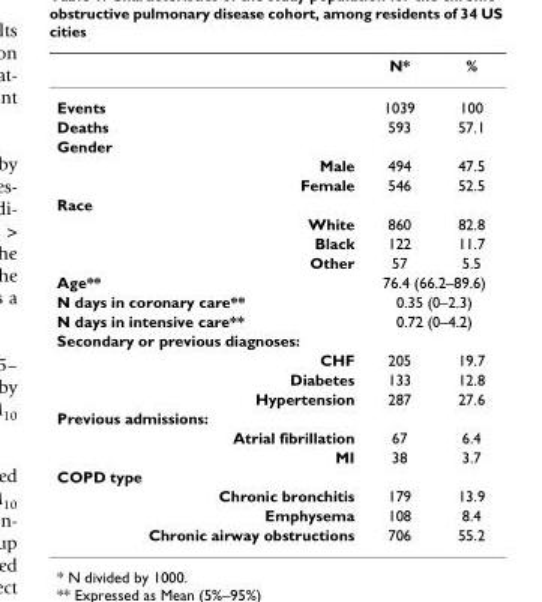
<table><thead><tr><td></td><td>N*</td><td>%</td></tr></thead><tbody><tr><td>Events</td><td>1039</td><td>100</td></tr><tr><td>Deaths</td><td>593</td><td>57.1</td></tr><tr><td colspan="3">Gender</td></tr><tr><td>Male</td><td>494</td><td>47.5</td></tr><tr><td>Female</td><td>546</td><td>52.5</td></tr><tr><td colspan="3">Race</td></tr><tr><td>White</td><td>860</td><td>82.8</td></tr><tr><td>Black</td><td>122</td><td>11.7</td></tr><tr><td>Other</td><td>57</td><td>5.5</td></tr><tr><td>Age**</td><td colspan="2">76.4 (66.2–89.6)</td></tr><tr><td>N days in coronary care**</td><td colspan="2">0.35 (0–2.3)</td></tr><tr><td>N days in intensive care**</td><td colspan="2">0.72 (0–4.2)</td></tr><tr><td colspan="3">Secondary or previous diagnoses:</td></tr><tr><td>CHF</td><td>205</td><td>19.7</td></tr><tr><td>Diabetes</td><td>133</td><td>12.8</td></tr><tr><td>Hypertension</td><td>287</td><td>27.6</td></tr><tr><td colspan="3">Previous admissions:</td></tr><tr><td>Atrial fibrillation</td><td>67</td><td>6.4</td></tr><tr><td>MI</td><td>38</td><td>3.7</td></tr><tr><td colspan="3">COPD type</td></tr><tr><td>Chronic bronchitis</td><td>179</td><td>13.9</td></tr><tr><td>Emphysema</td><td>108</td><td>8.4</td></tr><tr><td>Chronic airway obstructions</td><td>706</td><td>55.2</td></tr></tbody></table>